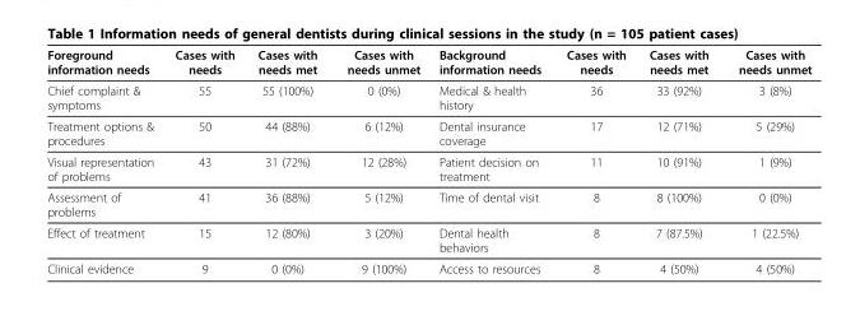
<table><tbody><tr><td>Foreground information needs</td><td>Cases with needs</td><td>Cases with needs met</td><td>Cases with needs unmet</td><td>Background information needs</td><td>Cases with needs</td><td>Cases with needs met</td><td>Cases with needs unmet</td></tr><tr><td>Chief complaint &amp; symptoms</td><td>55</td><td>55 (100%)</td><td>0 (0%)</td><td>Medical &amp; health history</td><td>36</td><td>33 (92%)</td><td>3 (8%)</td></tr><tr><td>Treatment options &amp; procedures</td><td>50</td><td>44 (88%)</td><td>6 (12%)</td><td>Dental insurance coverage</td><td>17</td><td>12 (71%)</td><td>5 (29%)</td></tr><tr><td>Visual representation of problems</td><td>43</td><td>31 (72%)</td><td>12 (28%)</td><td>Patient decision on treatment</td><td>11</td><td>10 (91%)</td><td>1 (9%)</td></tr><tr><td>Assessment of problems</td><td>41</td><td>36 (88%)</td><td>5 (12%)</td><td>Time of dental visit</td><td>8</td><td>8 (100%)</td><td>0 (0%)</td></tr><tr><td>Effect of treatment</td><td>15</td><td>12 (80%)</td><td>3 (20%)</td><td>Dental health behaviors</td><td>8</td><td>7 (87.5%)</td><td>1 (22.5%)</td></tr><tr><td>Clinical evidence</td><td>9</td><td>0 (0%)</td><td>9 (100%)</td><td>Access to resources</td><td>8</td><td>4 (50%)</td><td>4 (50%)</td></tr></tbody></table>